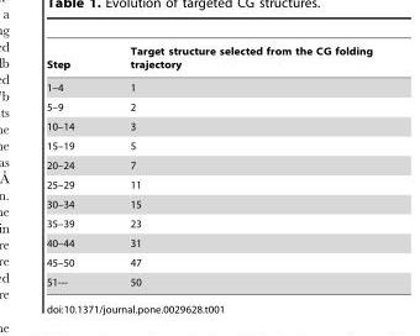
<table><thead><tr><td>Step</td><td>Target structure selected from the CG folding trajectory</td></tr></thead><tbody><tr><td>1–4</td><td>1</td></tr><tr><td>5–9</td><td>2</td></tr><tr><td>10–14</td><td>3</td></tr><tr><td>15–19</td><td>5</td></tr><tr><td>20–24</td><td>7</td></tr><tr><td>25–29</td><td>11</td></tr><tr><td>30–34</td><td>15</td></tr><tr><td>35–39</td><td>23</td></tr><tr><td>40–44</td><td>31</td></tr><tr><td>45–50</td><td>47</td></tr><tr><td>51---</td><td>50</td></tr></tbody></table>